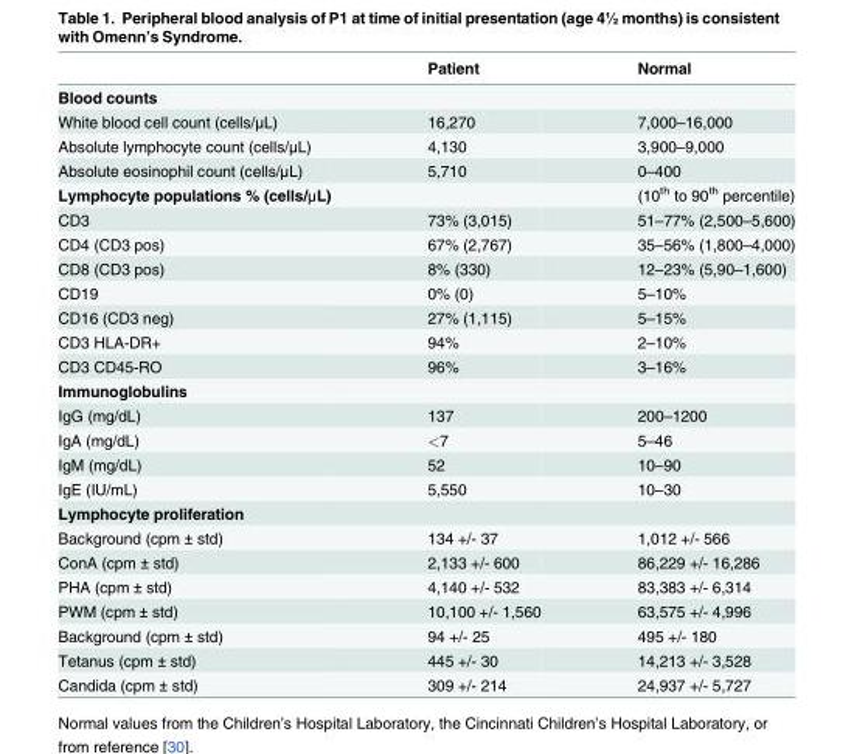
<table><thead><tr><td></td><td>Patient</td><td>Normal</td></tr></thead><tbody><tr><td colspan="3">Blood counts</td></tr><tr><td>White blood cell count (cells/μL)</td><td>16,270</td><td>7,000–16,000</td></tr><tr><td>Absolute lymphocyte count (cells/μL)</td><td>4,130</td><td>3,900–9,000</td></tr><tr><td>Absolute eosinophil count (cells/μL)</td><td>5,710</td><td>0–400</td></tr><tr><td>Lymphocyte populations % (cells/μL)</td><td></td><td>(10<sup>th</sup> to 90<sup>th</sup> percentile)</td></tr><tr><td>CD3</td><td>73% (3,015)</td><td>51–77% (2,500–5,600)</td></tr><tr><td>CD4 (CD3 pos)</td><td>67% (2,767)</td><td>35–56% (1,800–4,000)</td></tr><tr><td>CD8 (CD3 pos)</td><td>8% (330)</td><td>12–23% (5,90–1,600)</td></tr><tr><td>CD19</td><td>0% (0)</td><td>5–10%</td></tr><tr><td>CD16 (CD3 neg)</td><td>27% (1,115)</td><td>5–15%</td></tr><tr><td>CD3 HLA-DR+</td><td>94%</td><td>2–10%</td></tr><tr><td>CD3 CD45-RO</td><td>96%</td><td>3–16%</td></tr><tr><td colspan="3">Immunoglobulins</td></tr><tr><td>IgG (mg/dL)</td><td>137</td><td>200–1200</td></tr><tr><td>IgA (mg/dL)</td><td>&lt;7</td><td>5–46</td></tr><tr><td>IgM (mg/dL)</td><td>52</td><td>10–90</td></tr><tr><td>IgE (IU/mL)</td><td>5,550</td><td>10–30</td></tr><tr><td colspan="3">Lymphocyte proliferation</td></tr><tr><td>Background (cpm ± std)</td><td>134 +/- 37</td><td>1,012 +/- 566</td></tr><tr><td>ConA (cpm ± std)</td><td>2,133 +/- 600</td><td>86,229 +/- 16,286</td></tr><tr><td>PHA (cpm ± std)</td><td>4,140 +/- 532</td><td>83,383 +/- 6,314</td></tr><tr><td>PWM (cpm ± std)</td><td>10,100 +/- 1,560</td><td>63,575 +/- 4,996</td></tr><tr><td>Background (cpm ± std)</td><td>94 +/- 25</td><td>495 +/- 180</td></tr><tr><td>Tetanus (cpm ± std)</td><td>445 +/- 30</td><td>14,213 +/- 3,528</td></tr><tr><td>Candida (cpm ± std)</td><td>309 +/- 214</td><td>24,937 +/- 5,727</td></tr></tbody></table>